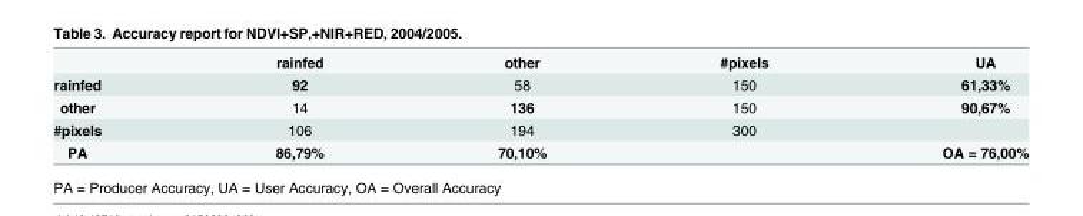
<table><thead><tr><td></td><td>rainfed</td><td>other</td><td>#pixels</td><td>UA</td></tr></thead><tbody><tr><td>rainfed</td><td>92</td><td>58</td><td>150</td><td>61,33%</td></tr><tr><td>other</td><td>14</td><td>136</td><td>150</td><td>90,67%</td></tr><tr><td>#pixels</td><td>106</td><td>194</td><td>300</td><td></td></tr><tr><td>PA</td><td>86,79%</td><td>70,10%</td><td></td><td>OA = 76,00%</td></tr></tbody></table>